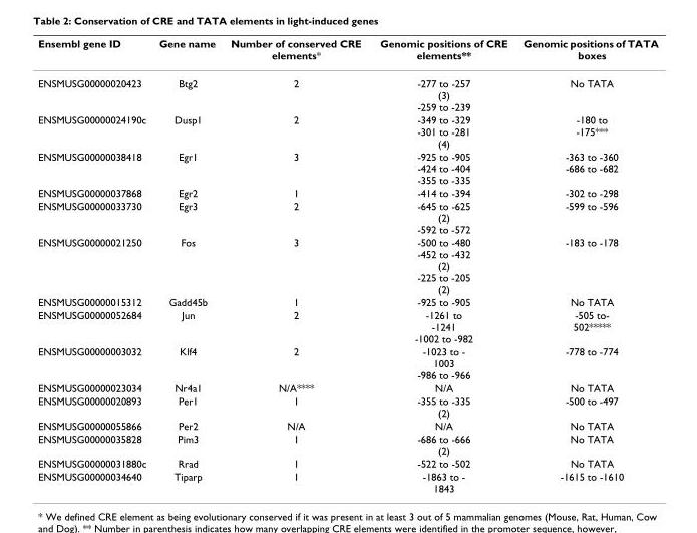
<table><thead><tr><td>Ensembl gene ID</td><td>Gene name</td><td>Number of conserved CRE elements*</td><td>Genomic positions of CRE elements**</td><td>Genomic positions of TATA boxes</td></tr></thead><tbody><tr><td>ENSMUSG00000020423</td><td>Btg2</td><td>2</td><td>-277 to -257 (3) -259 to -239</td><td>No TATA</td></tr><tr><td>ENSMUSG00000024190c</td><td>Dusp1</td><td>2</td><td>-349 to -329 -301 to -281 (4)</td><td>-180 to -175***</td></tr><tr><td>ENSMUSG00000038418</td><td>Egr1</td><td>3</td><td>-925 to -905 -424 to -404 -355 to -335</td><td>-363 to -360 -686 to -682</td></tr><tr><td>ENSMUSG00000037868</td><td>Egr2</td><td>1</td><td>-414 to -394</td><td>-302 to -298</td></tr><tr><td>ENSMUSG00000033730</td><td>Egr3</td><td>2</td><td>-645 to -625 (2) -592 to -572</td><td>-599 to -596</td></tr><tr><td>ENSMUSG00000021250</td><td>Fos</td><td>3</td><td>-500 to -480 -452 to -432 (2) -225 to -205 (2)</td><td>-183 to -178</td></tr><tr><td>ENSMUSG00000015312</td><td>Gadd45b</td><td>1</td><td>-925 to -905</td><td>No TATA</td></tr><tr><td>ENSMUSG00000052684</td><td>Jun</td><td>2</td><td>-1261 to -1241 -1002 to -982</td><td>-505 to- 502*****</td></tr><tr><td>ENSMUSG00000003032</td><td>Klf4</td><td>2</td><td>-1023 to - 1003 -986 to -966</td><td>-778 to -774</td></tr><tr><td>ENSMUSG00000023034</td><td>Nr4a1</td><td>N/A****</td><td>N/A</td><td>No TATA</td></tr><tr><td>ENSMUSG00000020893</td><td>Per1</td><td>1</td><td>-355 to -335 (2)</td><td>-500 to -497</td></tr><tr><td>ENSMUSG00000055866</td><td>Per2</td><td>N/A</td><td>N/A</td><td>No TATA</td></tr><tr><td>ENSMUSG00000035828</td><td>Pim3</td><td>1</td><td>-686 to -666 (2)</td><td>No TATA</td></tr><tr><td>ENSMUSG00000031880c</td><td>Rrad</td><td>1</td><td>-522 to -502</td><td>No TATA</td></tr><tr><td>ENSMUSG00000034640</td><td>Tiparp</td><td>1</td><td>-1863 to - 1843</td><td>-1615 to -1610</td></tr></tbody></table>